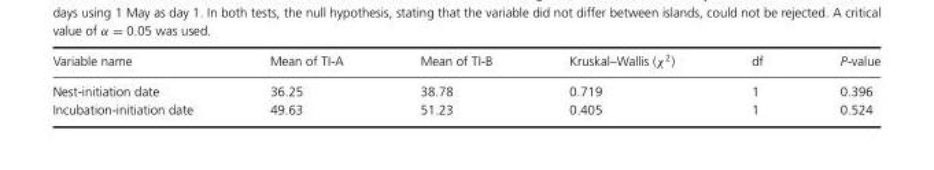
<table><thead><tr><td>Variable name</td><td>Mean of TI-A</td><td>Mean of TI-B</td><td>Kruskal–Wallis (χ<sup>2</sup>)</td><td>df</td><td>P-value</td></tr></thead><tbody><tr><td>Nest-initiation date</td><td>36.25</td><td>38.78</td><td>0.719</td><td>1</td><td>0.396</td></tr><tr><td>Incubation-initiation date</td><td>49.63</td><td>51.23</td><td>0.405</td><td>1</td><td>0.524</td></tr></tbody></table>